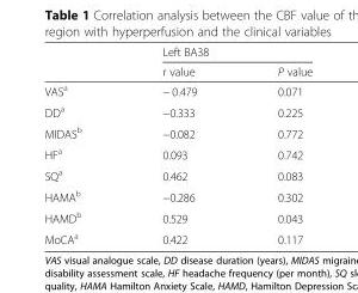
<table><thead><tr><td rowspan="2"></td><td colspan="2">Left BA38</td></tr><tr><td>r value</td><td>P value</td></tr></thead><tbody><tr><td>VAS<sup>a</sup></td><td>− 0.479</td><td>0.071</td></tr><tr><td>DD<sup>a</sup></td><td>−0.333</td><td>0.225</td></tr><tr><td>MIDAS<sup>b</sup></td><td>−0.082</td><td>0.772</td></tr><tr><td>HF<sup>a</sup></td><td>0.093</td><td>0.742</td></tr><tr><td>SQ<sup>a</sup></td><td>0.462</td><td>0.083</td></tr><tr><td>HAMA<sup>b</sup></td><td>−0.286</td><td>0.302</td></tr><tr><td>HAMD<sup>b</sup></td><td>0.529</td><td>0.043</td></tr><tr><td>MoCA<sup>a</sup></td><td>0.422</td><td>0.117</td></tr></tbody></table>